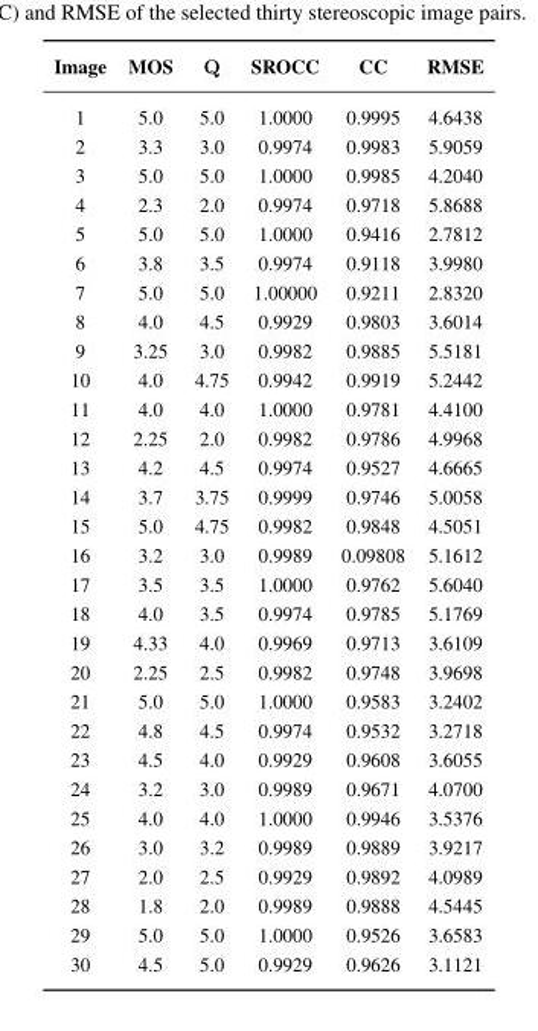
<table><thead><tr><td>Image</td><td>MOS</td><td>Q</td><td>SROCC</td><td>CC</td><td>RMSE</td></tr></thead><tbody><tr><td>1</td><td>5.0</td><td>5.0</td><td>1.0000</td><td>0.9995</td><td>4.6438</td></tr><tr><td>2</td><td>3.3</td><td>3.0</td><td>0.9974</td><td>0.9983</td><td>5.9059</td></tr><tr><td>3</td><td>5.0</td><td>5.0</td><td>1.0000</td><td>0.9985</td><td>4.2040</td></tr><tr><td>4</td><td>2.3</td><td>2.0</td><td>0.9974</td><td>0.9718</td><td>5.8688</td></tr><tr><td>5</td><td>5.0</td><td>5.0</td><td>1.0000</td><td>0.9416</td><td>2.7812</td></tr><tr><td>6</td><td>3.8</td><td>3.5</td><td>0.9974</td><td>0.9118</td><td>3.9980</td></tr><tr><td>7</td><td>5.0</td><td>5.0</td><td>1.00000</td><td>0.9211</td><td>2.8320</td></tr><tr><td>8</td><td>4.0</td><td>4.5</td><td>0.9929</td><td>0.9803</td><td>3.6014</td></tr><tr><td>9</td><td>3.25</td><td>3.0</td><td>0.9982</td><td>0.9885</td><td>5.5181</td></tr><tr><td>10</td><td>4.0</td><td>4.75</td><td>0.9942</td><td>0.9919</td><td>5.2442</td></tr><tr><td>11</td><td>4.0</td><td>4.0</td><td>1.0000</td><td>0.9781</td><td>4.4100</td></tr><tr><td>12</td><td>2.25</td><td>2.0</td><td>0.9982</td><td>0.9786</td><td>4.9968</td></tr><tr><td>13</td><td>4.2</td><td>4.5</td><td>0.9974</td><td>0.9527</td><td>4.6665</td></tr><tr><td>14</td><td>3.7</td><td>3.75</td><td>0.9999</td><td>0.9746</td><td>5.0058</td></tr><tr><td>15</td><td>5.0</td><td>4.75</td><td>0.9982</td><td>0.9848</td><td>4.5051</td></tr><tr><td>16</td><td>3.2</td><td>3.0</td><td>0.9989</td><td>0.09808</td><td>5.1612</td></tr><tr><td>17</td><td>3.5</td><td>3.5</td><td>1.0000</td><td>0.9762</td><td>5.6040</td></tr><tr><td>18</td><td>4.0</td><td>3.5</td><td>0.9974</td><td>0.9785</td><td>5.1769</td></tr><tr><td>19</td><td>4.33</td><td>4.0</td><td>0.9969</td><td>0.9713</td><td>3.6109</td></tr><tr><td>20</td><td>2.25</td><td>2.5</td><td>0.9982</td><td>0.9748</td><td>3.9698</td></tr><tr><td>21</td><td>5.0</td><td>5.0</td><td>1.0000</td><td>0.9583</td><td>3.2402</td></tr><tr><td>22</td><td>4.8</td><td>4.5</td><td>0.9974</td><td>0.9532</td><td>3.2718</td></tr><tr><td>23</td><td>4.5</td><td>4.0</td><td>0.9929</td><td>0.9608</td><td>3.6055</td></tr><tr><td>24</td><td>3.2</td><td>3.0</td><td>0.9989</td><td>0.9671</td><td>4.0700</td></tr><tr><td>25</td><td>4.0</td><td>4.0</td><td>1.0000</td><td>0.9946</td><td>3.5376</td></tr><tr><td>26</td><td>3.0</td><td>3.2</td><td>0.9989</td><td>0.9889</td><td>3.9217</td></tr><tr><td>27</td><td>2.0</td><td>2.5</td><td>0.9929</td><td>0.9892</td><td>4.0989</td></tr><tr><td>28</td><td>1.8</td><td>2.0</td><td>0.9989</td><td>0.9888</td><td>4.5445</td></tr><tr><td>29</td><td>5.0</td><td>5.0</td><td>1.0000</td><td>0.9526</td><td>3.6583</td></tr><tr><td>30</td><td>4.5</td><td>5.0</td><td>0.9929</td><td>0.9626</td><td>3.1121</td></tr></tbody></table>